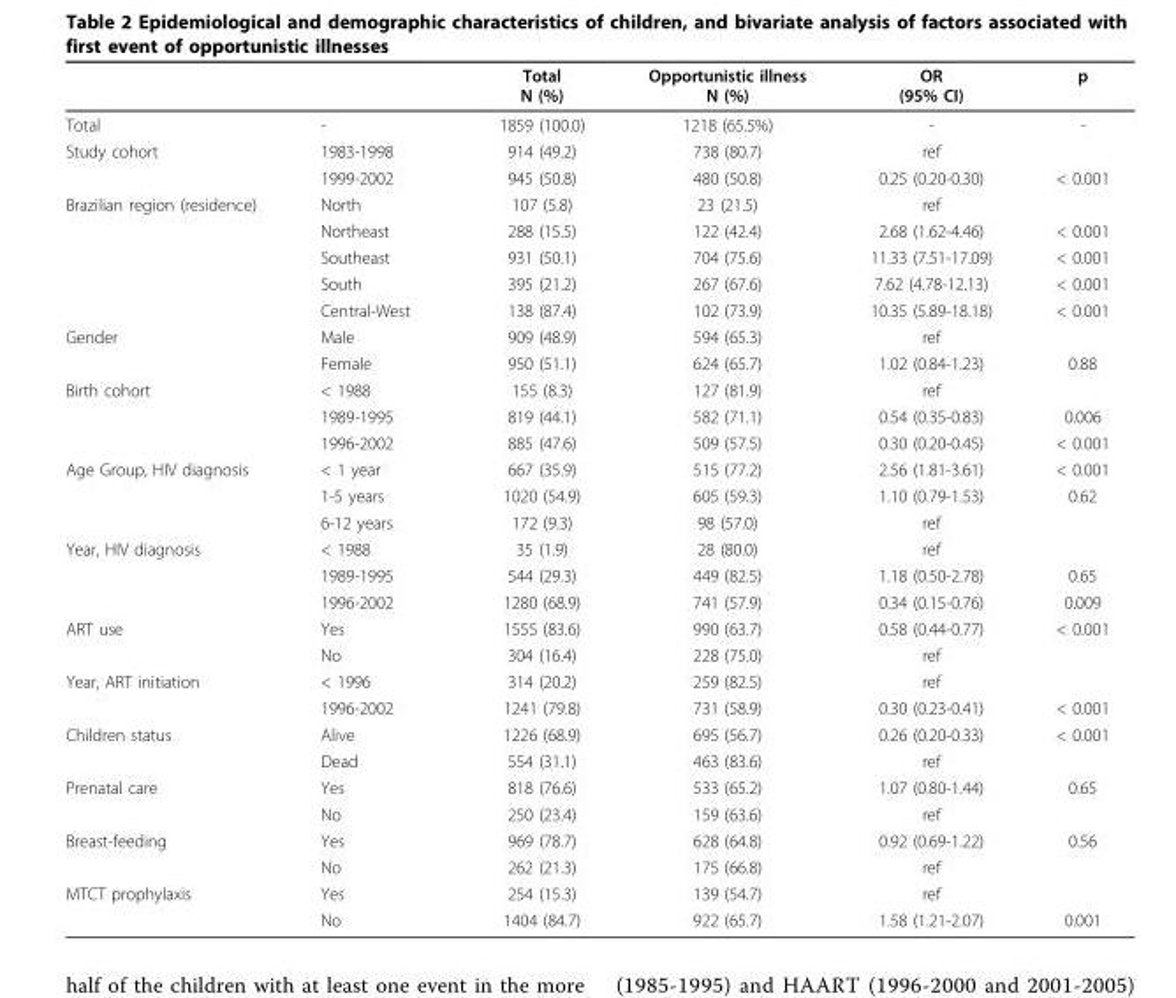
<table><thead><tr><td></td><td></td><td>Total N (%)</td><td>Opportunistic illness N (%)</td><td>OR (95% CI)</td><td>p</td></tr></thead><tbody><tr><td>Total</td><td>-</td><td>1859 (100.0)</td><td>1218 (65.5%)</td><td>-</td><td>-</td></tr><tr><td rowspan="2">Study cohort</td><td>1983-1998</td><td>914 (49.2)</td><td>738 (80.7)</td><td>ref</td><td></td></tr><tr><td>1999-2002</td><td>945 (50.8)</td><td>480 (50.8)</td><td>0.25 (0.20-0.30)</td><td>&lt; 0.001</td></tr><tr><td rowspan="5">Brazilian region (residence)</td><td>North</td><td>107 (5.8)</td><td>23 (21.5)</td><td>ref</td><td></td></tr><tr><td>Northeast</td><td>288 (15.5)</td><td>122 (42.4)</td><td>2.68 (1.62-4.46)</td><td>&lt; 0.001</td></tr><tr><td>Southeast</td><td>931 (50.1)</td><td>704 (75.6)</td><td>11.33 (7.51-17.09)</td><td>&lt; 0.001</td></tr><tr><td>South</td><td>395 (21.2)</td><td>267 (67.6)</td><td>7.62 (4.78-12.13)</td><td>&lt; 0.001</td></tr><tr><td>Central-West</td><td>138 (87.4)</td><td>102 (73.9)</td><td>10.35 (5.89-18.18)</td><td>&lt; 0.001</td></tr><tr><td rowspan="2">Gender</td><td>Male</td><td>909 (48.9)</td><td>594 (65.3)</td><td>ref</td><td></td></tr><tr><td>Female</td><td>950 (51.1)</td><td>624 (65.7)</td><td>1.02 (0.84-1.23)</td><td>0.88</td></tr><tr><td rowspan="3">Birth cohort</td><td>&lt; 1988</td><td>155 (8.3)</td><td>127 (81.9)</td><td>ref</td><td></td></tr><tr><td>1989-1995</td><td>819 (44.1)</td><td>582 (71.1)</td><td>0.54 (0.35-0.83)</td><td>0.006</td></tr><tr><td>1996-2002</td><td>885 (47.6)</td><td>509 (57.5)</td><td>0.30 (0.20-0.45)</td><td>&lt; 0.001</td></tr><tr><td rowspan="3">Age Group, HIV diagnosis</td><td>&lt; 1 year</td><td>667 (35.9)</td><td>515 (77.2)</td><td>2.56 (1.81-3.61)</td><td>&lt; 0.001</td></tr><tr><td>1-5 years</td><td>1020 (54.9)</td><td>605 (59.3)</td><td>1.10 (0.79-1.53)</td><td>0.62</td></tr><tr><td>6-12 years</td><td>172 (9.3)</td><td>98 (57.0)</td><td>ref</td><td></td></tr><tr><td rowspan="3">Year, HIV diagnosis</td><td>&lt; 1988</td><td>35 (1.9)</td><td>28 (80.0)</td><td>ref</td><td></td></tr><tr><td>1989-1995</td><td>544 (29.3)</td><td>449 (82.5)</td><td>1.18 (0.50-2.78)</td><td>0.65</td></tr><tr><td>1996-2002</td><td>1280 (68.9)</td><td>741 (57.9)</td><td>0.34 (0.15-0.76)</td><td>0.009</td></tr><tr><td rowspan="2">ART use</td><td>Yes</td><td>1555 (83.6)</td><td>990 (63.7)</td><td>0.58 (0.44-0.77)</td><td>&lt; 0.001</td></tr><tr><td>No</td><td>304 (16.4)</td><td>228 (75.0)</td><td>ref</td><td></td></tr><tr><td rowspan="2">Year, ART initiation</td><td>&lt; 1996</td><td>314 (20.2)</td><td>259 (82.5)</td><td>ref</td><td></td></tr><tr><td>1996-2002</td><td>1241 (79.8)</td><td>731 (58.9)</td><td>0.30 (0.23-0.41)</td><td>&lt; 0.001</td></tr><tr><td rowspan="2">Children status</td><td>Alive</td><td>1226 (68.9)</td><td>695 (56.7)</td><td>0.26 (0.20-0.33)</td><td>&lt; 0.001</td></tr><tr><td>Dead</td><td>554 (31.1)</td><td>463 (83.6)</td><td>ref</td><td></td></tr><tr><td rowspan="2">Prenatal care</td><td>Yes</td><td>818 (76.6)</td><td>533 (65.2)</td><td>1.07 (0.80-1.44)</td><td>0.65</td></tr><tr><td>No</td><td>250 (23.4)</td><td>159 (63.6)</td><td>ref</td><td></td></tr><tr><td rowspan="2">Breast-feeding</td><td>Yes</td><td>969 (78.7)</td><td>628 (64.8)</td><td>0.92 (0.69-1.22)</td><td>0.56</td></tr><tr><td>No</td><td>262 (21.3)</td><td>175 (66.8)</td><td>ref</td><td></td></tr><tr><td rowspan="2">MTCT prophylaxis</td><td>Yes</td><td>254 (15.3)</td><td>139 (54.7)</td><td>ref</td><td></td></tr><tr><td>No</td><td>1404 (84.7)</td><td>922 (65.7)</td><td>1.58 (1.21-2.07)</td><td>0.001</td></tr></tbody></table>